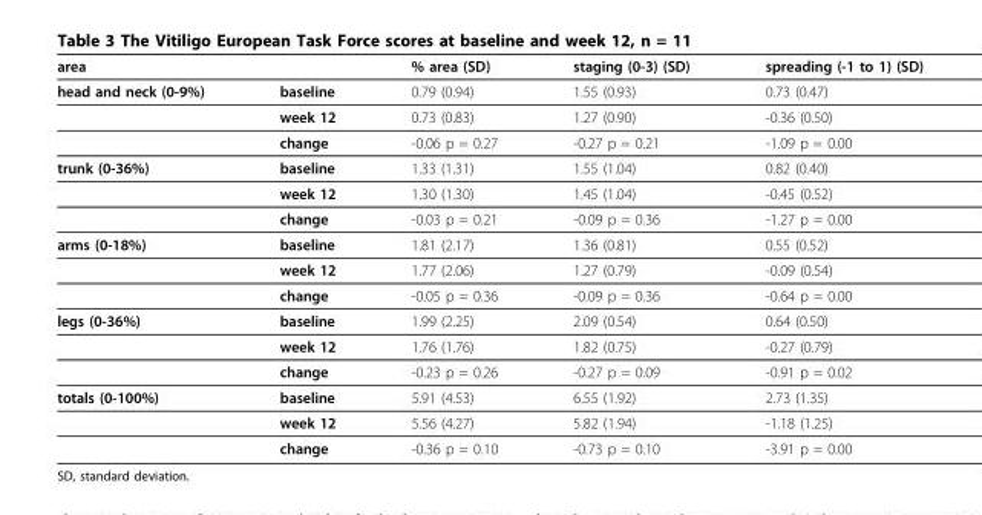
<table><thead><tr><td>area</td><td></td><td>% area (SD)</td><td>staging (0-3) (SD)</td><td>spreading (-1 to 1) (SD)</td></tr></thead><tbody><tr><td rowspan="3">head and neck (0-9%)</td><td>baseline</td><td>0.79 (0.94)</td><td>1.55 (0.93)</td><td>0.73 (0.47)</td></tr><tr><td>week 12</td><td>0.73 (0.83)</td><td>1.27 (0.90)</td><td>-0.36 (0.50)</td></tr><tr><td>change</td><td>-0.06 p = 0.27</td><td>-0.27 p = 0.21</td><td>-1.09 p = 0.00</td></tr><tr><td rowspan="3">trunk (0-36%)</td><td>baseline</td><td>1.33 (1.31)</td><td>1.55 (1.04)</td><td>0.82 (0.40)</td></tr><tr><td>week 12</td><td>1.30 (1.30)</td><td>1.45 (1.04)</td><td>-0.45 (0.52)</td></tr><tr><td>change</td><td>-0.03 p = 0.21</td><td>-0.09 p = 0.36</td><td>-1.27 p = 0.00</td></tr><tr><td rowspan="3">arms (0-18%)</td><td>baseline</td><td>1.81 (2.17)</td><td>1.36 (0.81)</td><td>0.55 (0.52)</td></tr><tr><td>week 12</td><td>1.77 (2.06)</td><td>1.27 (0.79)</td><td>-0.09 (0.54)</td></tr><tr><td>change</td><td>-0.05 p = 0.36</td><td>-0.09 p = 0.36</td><td>-0.64 p = 0.00</td></tr><tr><td rowspan="3">legs (0-36%)</td><td>baseline</td><td>1.99 (2.25)</td><td>2.09 (0.54)</td><td>0.64 (0.50)</td></tr><tr><td>week 12</td><td>1.76 (1.76)</td><td>1.82 (0.75)</td><td>-0.27 (0.79)</td></tr><tr><td>change</td><td>-0.23 p = 0.26</td><td>-0.27 p = 0.09</td><td>-0.91 p = 0.02</td></tr><tr><td rowspan="3">totals (0-100%)</td><td>baseline</td><td>5.91 (4.53)</td><td>6.55 (1.92)</td><td>2.73 (1.35)</td></tr><tr><td>week 12</td><td>5.56 (4.27)</td><td>5.82 (1.94)</td><td>-1.18 (1.25)</td></tr><tr><td>change</td><td>-0.36 p = 0.10</td><td>-0.73 p = 0.10</td><td>-3.91 p = 0.00</td></tr></tbody></table>